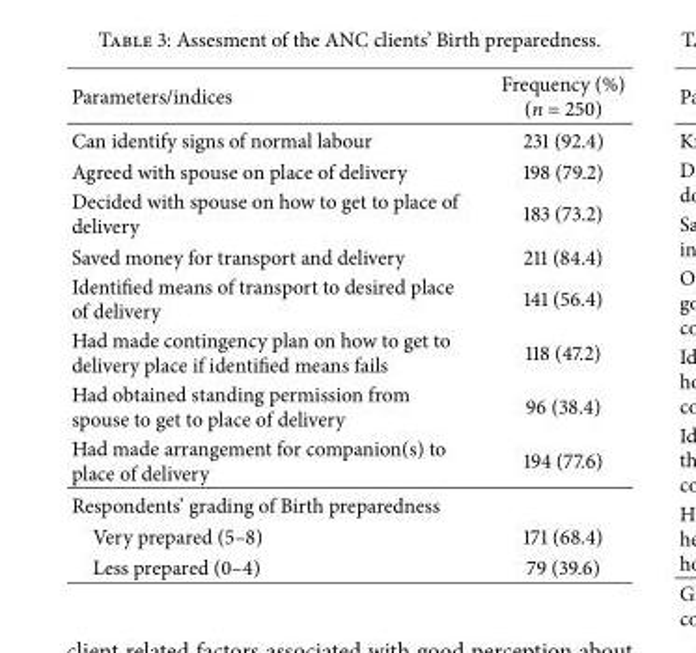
<table><thead><tr><td>Parameters/indices</td><td>Frequency (%) (n = 250)</td></tr></thead><tbody><tr><td>Can identify signs of normal labour</td><td>231 (92.4)</td></tr><tr><td>Agreed with spouse on place of delivery</td><td>198 (79.2)</td></tr><tr><td>Decided with spouse on how to get to place of delivery</td><td>183 (73.2)</td></tr><tr><td>Saved money for transport and delivery</td><td>211 (84.4)</td></tr><tr><td>Identified means of transport to desired place of delivery</td><td>141 (56.4)</td></tr><tr><td>Had made contingency plan on how to get to delivery place if identified means fails</td><td>118 (47.2)</td></tr><tr><td>Had obtained standing permission from spouse to get to place of delivery</td><td>96 (38.4)</td></tr><tr><td>Had made arrangement for companion(s) to place of delivery</td><td>194 (77.6)</td></tr><tr><td colspan="2">Respondents’ grading of Birth preparedness</td></tr><tr><td>Very prepared (5–8)</td><td>171 (68.4)</td></tr><tr><td>Less prepared (0–4)</td><td>79 (39.6)</td></tr></tbody></table>